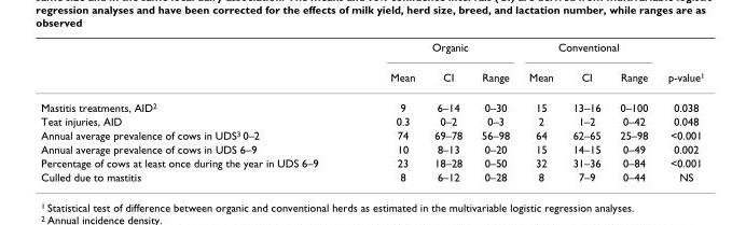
<table><thead><tr><td rowspan="2"></td><td colspan="3">Organic</td><td colspan="3">Conventional</td><td rowspan="2">p-value<sup>1</sup></td></tr><tr><td>Mean</td><td>CI</td><td>Range</td><td>Mean</td><td>CI</td><td>Range</td></tr></thead><tbody><tr><td>Mastitis treatments, AID<sup>2</sup></td><td>9</td><td>6–14</td><td>0–30</td><td>15</td><td>13–16</td><td>0–100</td><td>0.038</td></tr><tr><td>Teat injuries, AID</td><td>0.3</td><td>0–2</td><td>0–3</td><td>2</td><td>1–2</td><td>0–42</td><td>0.048</td></tr><tr><td>Annual average prevalence of cows in UDS<sup>3</sup> 0–2</td><td>74</td><td>69–78</td><td>56–98</td><td>64</td><td>62–65</td><td>25–98</td><td>&lt;0.001</td></tr><tr><td>Annual average prevalence of cows in UDS 6–9</td><td>10</td><td>8–13</td><td>0–20</td><td>15</td><td>14–15</td><td>0–49</td><td>0.002</td></tr><tr><td>Percentage of cows at least once during the year in UDS 6–9</td><td>23</td><td>18–28</td><td>0–50</td><td>32</td><td>31–36</td><td>0–84</td><td>&lt;0.001</td></tr><tr><td>Culled due to mastitis</td><td>8</td><td>6–12</td><td>0–28</td><td>8</td><td>7–9</td><td>0–44</td><td>NS</td></tr></tbody></table>